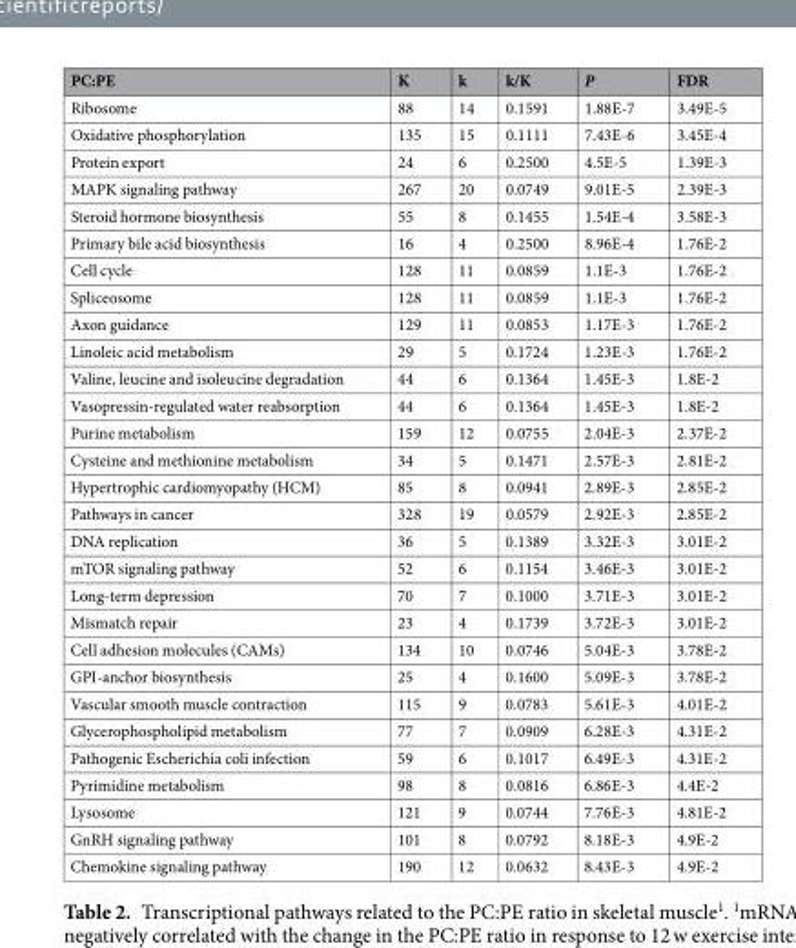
<table><thead><tr><td>PC:PE</td><td>K</td><td>k</td><td>k/K</td><td>P</td><td>FDR</td></tr></thead><tbody><tr><td>Ribosome</td><td>88</td><td>14</td><td>0.1591</td><td>1.88E-7</td><td>3.49E-5</td></tr><tr><td>Oxidative phosphorylation</td><td>135</td><td>15</td><td>0.1111</td><td>7.43E-6</td><td>3.45E-4</td></tr><tr><td>Protein export</td><td>24</td><td>6</td><td>0.2500</td><td>4.5E-5</td><td>1.39E-3</td></tr><tr><td>MAPK signaling pathway</td><td>267</td><td>20</td><td>0.0749</td><td>9.01E-5</td><td>2.39E-3</td></tr><tr><td>Steroid hormone biosynthesis</td><td>55</td><td>8</td><td>0.1455</td><td>1.54E-4</td><td>3.58E-3</td></tr><tr><td>Primary bile acid biosynthesis</td><td>16</td><td>4</td><td>0.2500</td><td>8.96E-4</td><td>1.76E-2</td></tr><tr><td>Cell cycle</td><td>128</td><td>11</td><td>0.0859</td><td>1.1E-3</td><td>1.76E-2</td></tr><tr><td>Spliceosome</td><td>128</td><td>11</td><td>0.0859</td><td>1.1E-3</td><td>1.76E-2</td></tr><tr><td>Axon guidance</td><td>129</td><td>11</td><td>0.0853</td><td>1.17E-3</td><td>1.76E-2</td></tr><tr><td>Linoleic acid metabolism</td><td>29</td><td>5</td><td>0.1724</td><td>1.23E-3</td><td>1.76E-2</td></tr><tr><td>Valine, leucine and isoleucine degradation</td><td>44</td><td>6</td><td>0.1364</td><td>1.45E-3</td><td>1.8E-2</td></tr><tr><td>Vasopressin-regulated water reabsorption</td><td>44</td><td>6</td><td>0.1364</td><td>1.45E-3</td><td>1.8E-2</td></tr><tr><td>Purine metabolism</td><td>159</td><td>12</td><td>0.0755</td><td>2.04E-3</td><td>2.37E-2</td></tr><tr><td>Cysteine and methionine metabolism</td><td>34</td><td>5</td><td>0.1471</td><td>2.57E-3</td><td>2.81E-2</td></tr><tr><td>Hypertrophic cardiomyopathy (HCM)</td><td>85</td><td>8</td><td>0.0941</td><td>2.89E-3</td><td>2.85E-2</td></tr><tr><td>Pathways in cancer</td><td>328</td><td>19</td><td>0.0579</td><td>2.92E-3</td><td>2.85E-2</td></tr><tr><td>DNA replication</td><td>36</td><td>5</td><td>0.1389</td><td>3.32E-3</td><td>3.01E-2</td></tr><tr><td>mTOR signaling pathway</td><td>52</td><td>6</td><td>0.1154</td><td>3.46E-3</td><td>3.01E-2</td></tr><tr><td>Long-term depression</td><td>70</td><td>7</td><td>0.1000</td><td>3.71E-3</td><td>3.01E-2</td></tr><tr><td>Mismatch repair</td><td>23</td><td>4</td><td>0.1739</td><td>3.72E-3</td><td>3.01E-2</td></tr><tr><td>Cell adhesion molecules (CAMs)</td><td>134</td><td>10</td><td>0.0746</td><td>5.04E-3</td><td>3.78E-2</td></tr><tr><td>GPI-anchor biosynthesis</td><td>25</td><td>4</td><td>0.1600</td><td>5.09E-3</td><td>3.78E-2</td></tr><tr><td>Vascular smooth muscle contraction</td><td>115</td><td>9</td><td>0.0783</td><td>5.61E-3</td><td>4.01E-2</td></tr><tr><td>Glycerophospholipid metabolism</td><td>77</td><td>7</td><td>0.0909</td><td>6.28E-3</td><td>4.31E-2</td></tr><tr><td>Pathogenic Escherichia coli infection</td><td>59</td><td>6</td><td>0.1017</td><td>6.49E-3</td><td>4.31E-2</td></tr><tr><td>Pyrimidine metabolism</td><td>98</td><td>8</td><td>0.0816</td><td>6.86E-3</td><td>4.4E-2</td></tr><tr><td>Lysosome</td><td>121</td><td>9</td><td>0.0744</td><td>7.76E-3</td><td>4.81E-2</td></tr><tr><td>GnRH signaling pathway</td><td>101</td><td>8</td><td>0.0792</td><td>8.18E-3</td><td>4.9E-2</td></tr><tr><td>Chemokine signaling pathway</td><td>190</td><td>12</td><td>0.0632</td><td>8.43E-3</td><td>4.9E-2</td></tr></tbody></table>